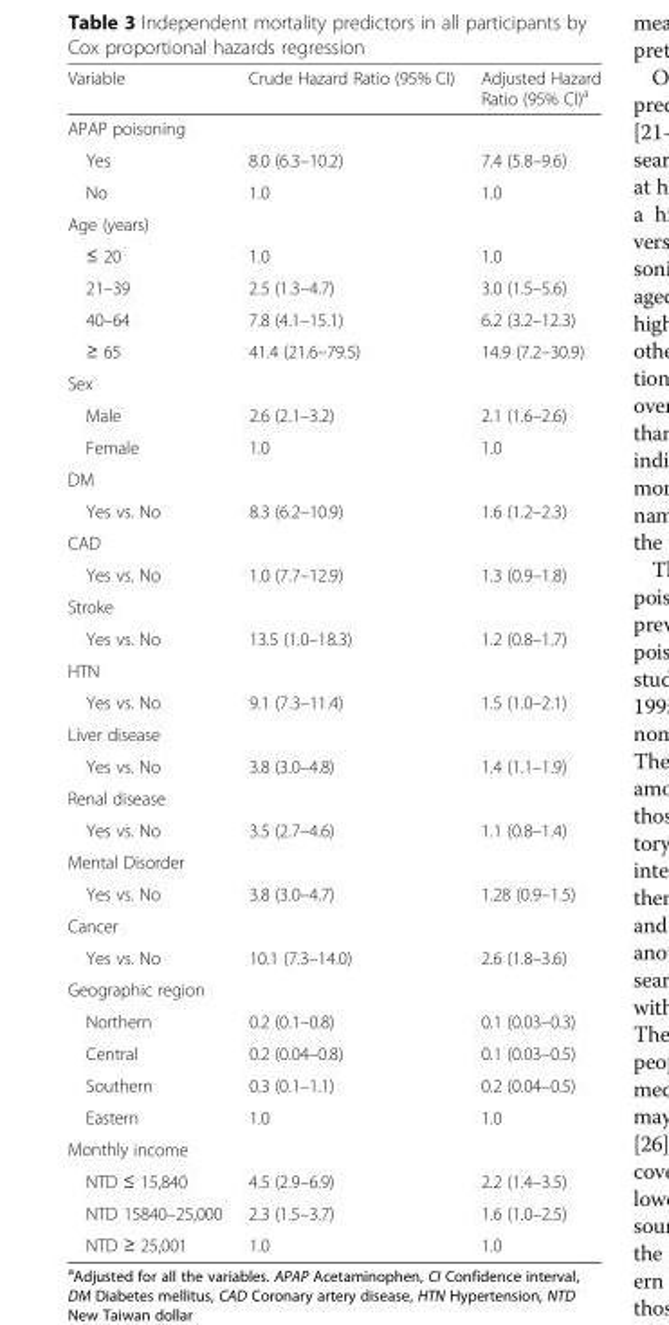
<table><thead><tr><td>Variable</td><td>Crude Hazard Ratio (95% CI)</td><td>Adjusted Hazard Ratio (95% CI)<sup>a</sup></td></tr></thead><tbody><tr><td colspan="3">APAP poisoning</td></tr><tr><td>Yes</td><td>8.0 (6.3–10.2)</td><td>7.4 (5.8–9.6)</td></tr><tr><td>No</td><td>1.0</td><td>1.0</td></tr><tr><td colspan="3">Age (years)</td></tr><tr><td>≤ 20</td><td>1.0</td><td>1.0</td></tr><tr><td>21–39</td><td>2.5 (1.3–4.7)</td><td>3.0 (1.5–5.6)</td></tr><tr><td>40–64</td><td>7.8 (4.1–15.1)</td><td>6.2 (3.2–12.3)</td></tr><tr><td>≥ 65</td><td>41.4 (21.6–79.5)</td><td>14.9 (7.2–30.9)</td></tr><tr><td colspan="3">Sex</td></tr><tr><td>Male</td><td>2.6 (2.1–3.2)</td><td>2.1 (1.6–2.6)</td></tr><tr><td>Female</td><td>1.0</td><td>1.0</td></tr><tr><td colspan="3">DM</td></tr><tr><td>Yes vs. No</td><td>8.3 (6.2–10.9)</td><td>1.6 (1.2–2.3)</td></tr><tr><td colspan="3">CAD</td></tr><tr><td>Yes vs. No</td><td>1.0 (7.7–12.9)</td><td>1.3 (0.9–1.8)</td></tr><tr><td colspan="3">Stroke</td></tr><tr><td>Yes vs. No</td><td>13.5 (1.0–18.3)</td><td>1.2 (0.8–1.7)</td></tr><tr><td colspan="3">HTN</td></tr><tr><td>Yes vs. No</td><td>9.1 (7.3–11.4)</td><td>1.5 (1.0–2.1)</td></tr><tr><td colspan="3">Liver disease</td></tr><tr><td>Yes vs. No</td><td>3.8 (3.0–4.8)</td><td>1.4 (1.1–1.9)</td></tr><tr><td colspan="3">Renal disease</td></tr><tr><td>Yes vs. No</td><td>3.5 (2.7–4.6)</td><td>1.1 (0.8–1.4)</td></tr><tr><td colspan="3">Mental Disorder</td></tr><tr><td>Yes vs. No</td><td>3.8 (3.0–4.7)</td><td>1.28 (0.9–1.5)</td></tr><tr><td colspan="3">Cancer</td></tr><tr><td>Yes vs. No</td><td>10.1 (7.3–14.0)</td><td>2.6 (1.8–3.6)</td></tr><tr><td colspan="3">Geographic region</td></tr><tr><td>Northern</td><td>0.2 (0.1–0.8)</td><td>0.1 (0.03–0.3)</td></tr><tr><td>Central</td><td>0.2 (0.04–0.8)</td><td>0.1 (0.03–0.5)</td></tr><tr><td>Southern</td><td>0.3 (0.1–1.1)</td><td>0.2 (0.04–0.5)</td></tr><tr><td>Eastern</td><td>1.0</td><td>1.0</td></tr><tr><td colspan="3">Monthly income</td></tr><tr><td>NTD ≤ 15,840</td><td>4.5 (2.9–6.9)</td><td>2.2 (1.4–3.5)</td></tr><tr><td>NTD 15840–25,000</td><td>2.3 (1.5–3.7)</td><td>1.6 (1.0–2.5)</td></tr><tr><td>NTD ≥ 25,001</td><td>1.0</td><td>1.0</td></tr></tbody></table>